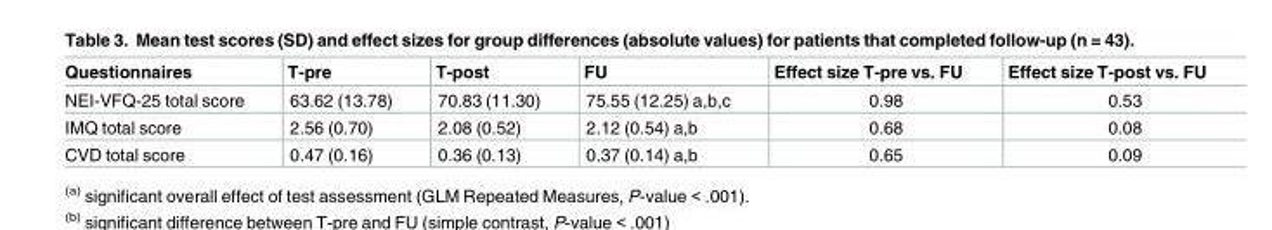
<table><thead><tr><td>Questionnaires</td><td>T-pre</td><td>T-post</td><td>FU</td><td>Effect size T-pre vs. FU</td><td>Effect size T-post vs. FU</td></tr></thead><tbody><tr><td>NEI-VFQ-25 total score</td><td>63.62 (13.78)</td><td>70.83 (11.30)</td><td>75.55 (12.25) a,b,c</td><td>0.98</td><td>0.53</td></tr><tr><td>IMQ total score</td><td>2.56 (0.70)</td><td>2.08 (0.52)</td><td>2.12 (0.54) a,b</td><td>0.68</td><td>0.08</td></tr><tr><td>CVD total score</td><td>0.47 (0.16)</td><td>0.36 (0.13)</td><td>0.37 (0.14) a,b</td><td>0.65</td><td>0.09</td></tr></tbody></table>